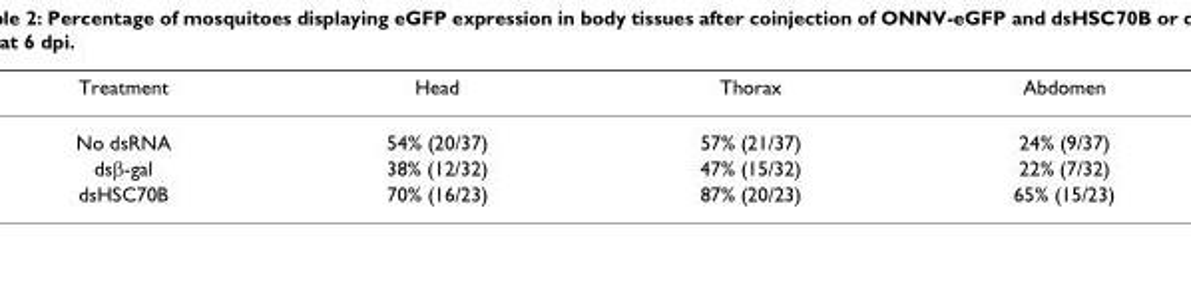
<table><thead><tr><td>Treatment</td><td>Head</td><td>Thorax</td><td>Abdomen</td></tr></thead><tbody><tr><td>No dsRNA</td><td>54% (20/37)</td><td>57% (21/37)</td><td>24% (9/37)</td></tr><tr><td>dsβ-gal</td><td>38% (12/32)</td><td>47% (15/32)</td><td>22% (7/32)</td></tr><tr><td>dsHSC70B</td><td>70% (16/23)</td><td>87% (20/23)</td><td>65% (15/23)</td></tr></tbody></table>